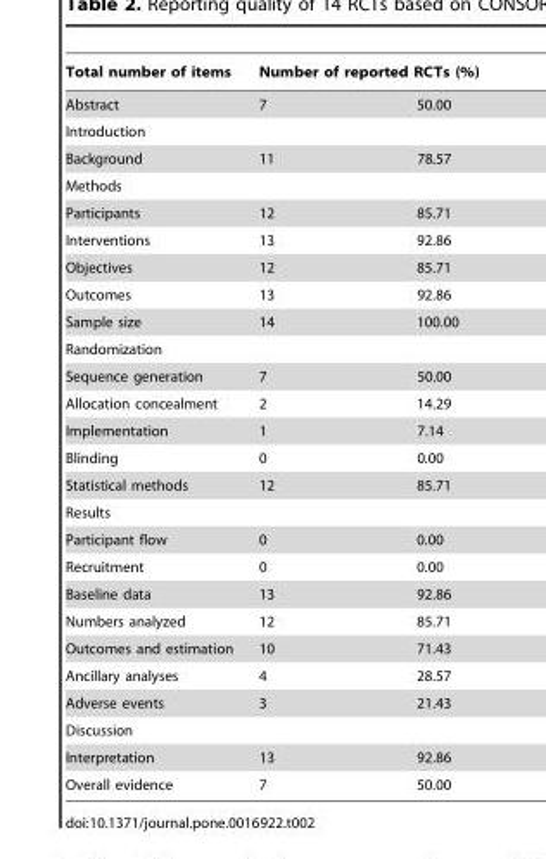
<table><thead><tr><td rowspan="2">Total number of items Abstract</td><td colspan="2">Number of reported RCTs (%)</td></tr><tr><td>7</td><td>50.00</td></tr></thead><tbody><tr><td colspan="3">Introduction</td></tr><tr><td>Background</td><td>11</td><td>78.57</td></tr><tr><td colspan="3">Methods</td></tr><tr><td>Participants</td><td>12</td><td>85.71</td></tr><tr><td>Interventions</td><td>13</td><td>92.86</td></tr><tr><td>Objectives</td><td>12</td><td>85.71</td></tr><tr><td>Outcomes</td><td>13</td><td>92.86</td></tr><tr><td>Sample size</td><td>14</td><td>100.00</td></tr><tr><td colspan="3">Randomization</td></tr><tr><td>Sequence generation</td><td>7</td><td>50.00</td></tr><tr><td>Allocation concealment</td><td>2</td><td>14.29</td></tr><tr><td>Implementation</td><td>1</td><td>7.14</td></tr><tr><td>Blinding</td><td>0</td><td>0.00</td></tr><tr><td>Statistical methods</td><td>12</td><td>85.71</td></tr><tr><td colspan="3">Results</td></tr><tr><td>Participant flow</td><td>0</td><td>0.00</td></tr><tr><td>Recruitment</td><td>0</td><td>0.00</td></tr><tr><td>Baseline data</td><td>13</td><td>92.86</td></tr><tr><td>Numbers analyzed</td><td>12</td><td>85.71</td></tr><tr><td>Outcomes and estimation</td><td>10</td><td>71.43</td></tr><tr><td>Ancillary analyses</td><td>4</td><td>28.57</td></tr><tr><td>Adverse events</td><td>3</td><td>21.43</td></tr><tr><td colspan="3">Discussion</td></tr><tr><td>Interpretation</td><td>13</td><td>92.86</td></tr><tr><td>Overall evidence</td><td>7</td><td>50.00</td></tr></tbody></table>